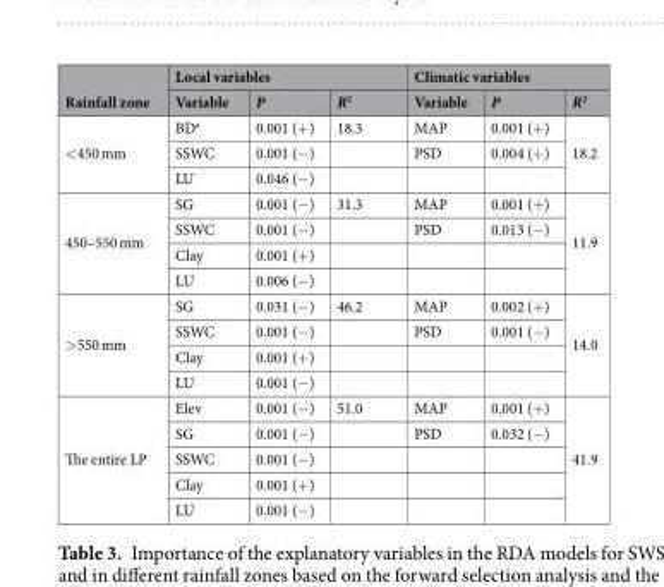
<table><thead><tr><td rowspan="2">Rainfall zone</td><td colspan="3">Local variables</td><td colspan="3">Climatic variables</td></tr><tr><td>Variable</td><td>P</td><td>R<sup>2</sup></td><td>Variable</td><td>P</td><td>R<sup>2</sup></td></tr></thead><tbody><tr><td rowspan="3">&lt;450 mm</td><td>BD<sup>a</sup></td><td>0.001 (+)</td><td>18.3</td><td>MAP</td><td>0.001 (+)</td><td rowspan="3">18.2</td></tr><tr><td>SSWC</td><td>0.001 (−)</td><td></td><td>PSD</td><td>0.004 (+)</td></tr><tr><td>LU</td><td>0.046 (−)</td><td></td><td></td><td></td></tr><tr><td rowspan="4">450–550 mm</td><td>SG</td><td>0.001 (−)</td><td>31.3</td><td>MAP</td><td>0.001 (+)</td><td rowspan="4">11.9</td></tr><tr><td>SSWC</td><td>0.001 (−)</td><td></td><td>PSD</td><td>0.013 (−)</td></tr><tr><td>Clay</td><td>0.001 (+)</td><td></td><td></td><td></td></tr><tr><td>LU</td><td>0.006 (−)</td><td></td><td></td><td></td></tr><tr><td rowspan="4">&gt;550 mm</td><td>SG</td><td>0.031 (−)</td><td>46.2</td><td>MAP</td><td>0.002 (+)</td><td rowspan="4">14.0</td></tr><tr><td>SSWC</td><td>0.001 (−)</td><td></td><td>PSD</td><td>0.001 (−)</td></tr><tr><td>Clay</td><td>0.001 (+)</td><td></td><td></td><td></td></tr><tr><td>LU</td><td>0.001 (−)</td><td></td><td></td><td></td></tr><tr><td rowspan="5">The entire LP</td><td>Elev</td><td>0.001 (−)</td><td>51.0</td><td>MAP</td><td>0.001 (+)</td><td rowspan="5">41.9</td></tr><tr><td>SG</td><td>0.001 (−)</td><td></td><td>PSD</td><td>0.032 (−)</td></tr><tr><td>SSWC</td><td>0.001 (−)</td><td></td><td></td><td></td></tr><tr><td>Clay</td><td>0.001 (+)</td><td></td><td></td><td></td></tr><tr><td>LU</td><td>0.001 (−)</td><td></td><td></td><td></td></tr></tbody></table>